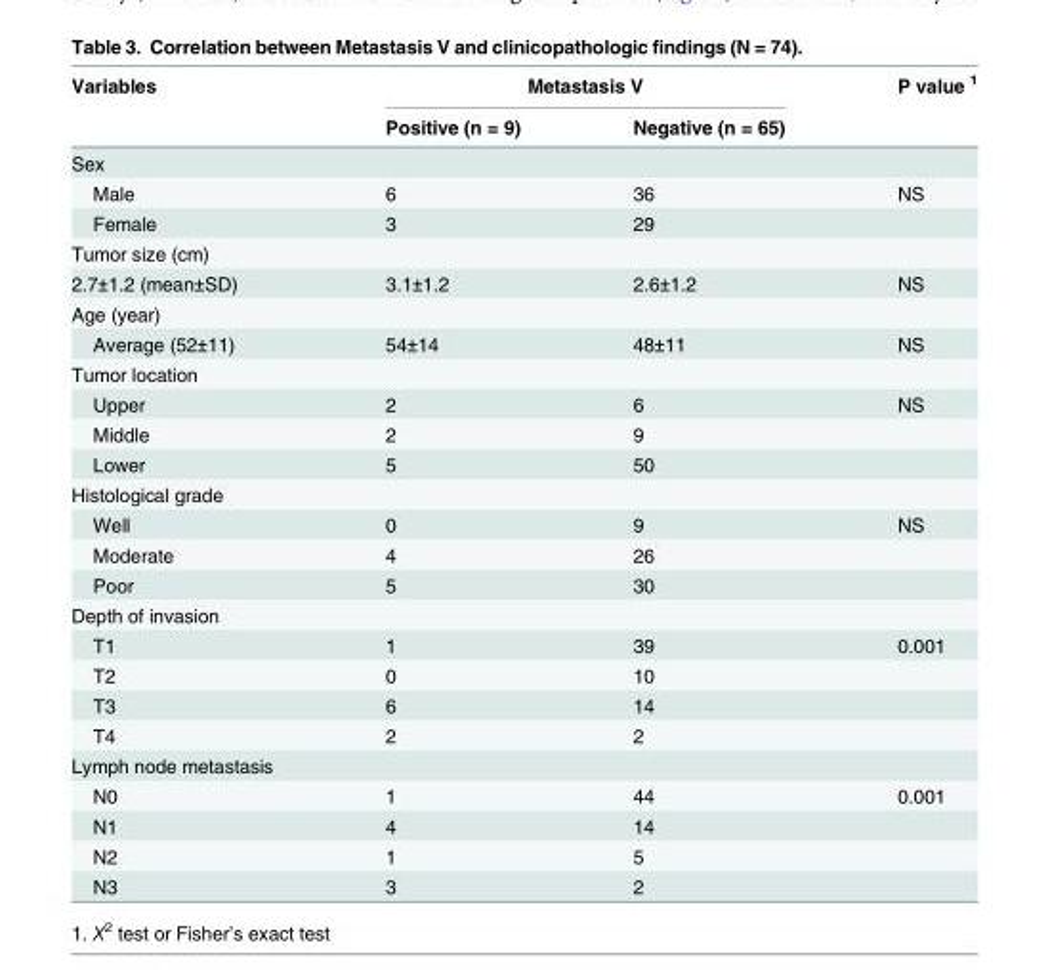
<table><thead><tr><td rowspan="2">Variables</td><td colspan="2">Metastasis V</td><td rowspan="2">P value <sup>1</sup></td></tr><tr><td>Positive (n = 9)</td><td>Negative (n = 65)</td></tr></thead><tbody><tr><td colspan="4">Sex</td></tr><tr><td>Male</td><td>6</td><td>36</td><td>NS</td></tr><tr><td>Female</td><td>3</td><td>29</td><td></td></tr><tr><td colspan="4">Tumor size (cm)</td></tr><tr><td>2.7±1.2 (mean±SD)</td><td>3.1±1.2</td><td>2.6±1.2</td><td>NS</td></tr><tr><td colspan="4">Age (year)</td></tr><tr><td>Average (52±11)</td><td>54±14</td><td>48±11</td><td>NS</td></tr><tr><td colspan="4">Tumor location</td></tr><tr><td>Upper</td><td>2</td><td>6</td><td>NS</td></tr><tr><td>Middle</td><td>2</td><td>9</td><td></td></tr><tr><td>Lower</td><td>5</td><td>50</td><td></td></tr><tr><td colspan="4">Histological grade</td></tr><tr><td>Well</td><td>0</td><td>9</td><td>NS</td></tr><tr><td>Moderate</td><td>4</td><td>26</td><td></td></tr><tr><td>Poor</td><td>5</td><td>30</td><td></td></tr><tr><td colspan="4">Depth of invasion</td></tr><tr><td>T1</td><td>1</td><td>39</td><td>0.001</td></tr><tr><td>T2</td><td>0</td><td>10</td><td></td></tr><tr><td>T3</td><td>6</td><td>14</td><td></td></tr><tr><td>T4</td><td>2</td><td>2</td><td></td></tr><tr><td colspan="4">Lymph node metastasis</td></tr><tr><td>N0</td><td>1</td><td>44</td><td>0.001</td></tr><tr><td>N1</td><td>4</td><td>14</td><td></td></tr><tr><td>N2</td><td>1</td><td>5</td><td></td></tr><tr><td>N3</td><td>3</td><td>2</td><td></td></tr></tbody></table>